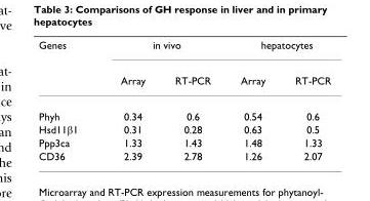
<table><thead><tr><td rowspan="2">Genes</td><td colspan="2">in vivo</td><td colspan="2">hepatocytes</td></tr><tr><td>Array</td><td>RT-PCR</td><td>Array</td><td>RT-PCR</td></tr></thead><tbody><tr><td>Phyh</td><td>0.34</td><td>0.6</td><td>0.54</td><td>0.6</td></tr><tr><td>Hsd11β1</td><td>0.31</td><td>0.28</td><td>0.63</td><td>0.5</td></tr><tr><td>Ppp3ca</td><td>1.33</td><td>1.43</td><td>1.48</td><td>1.33</td></tr><tr><td>CD36</td><td>2.39</td><td>2.78</td><td>1.26</td><td>2.07</td></tr></tbody></table>